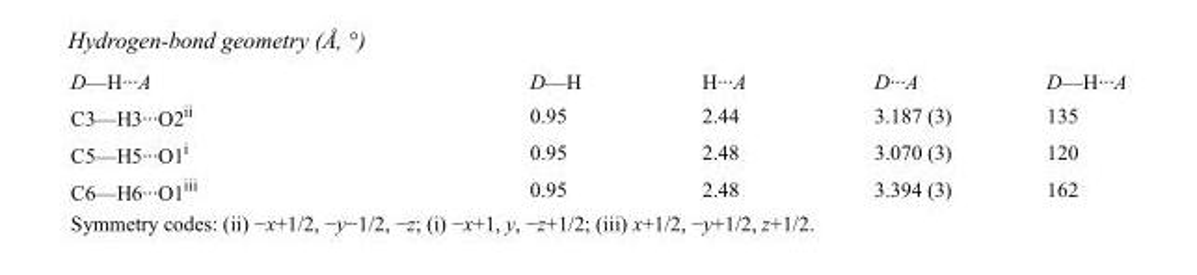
<table><tbody><tr><td>D—H···A</td><td>D—H</td><td>H···A</td><td>D···A</td><td>D—H···A</td></tr><tr><td>C3—H3···O2<sup>ii</sup></td><td>0.95</td><td>2.44</td><td>3.187 (3)</td><td>135</td></tr><tr><td>C5—H5···O1<sup>i</sup></td><td>0.95</td><td>2.48</td><td>3.070 (3)</td><td>120</td></tr><tr><td>C6—H6···O1<sup>iii</sup></td><td>0.95</td><td>2.48</td><td>3.394 (3)</td><td>162</td></tr></tbody></table>